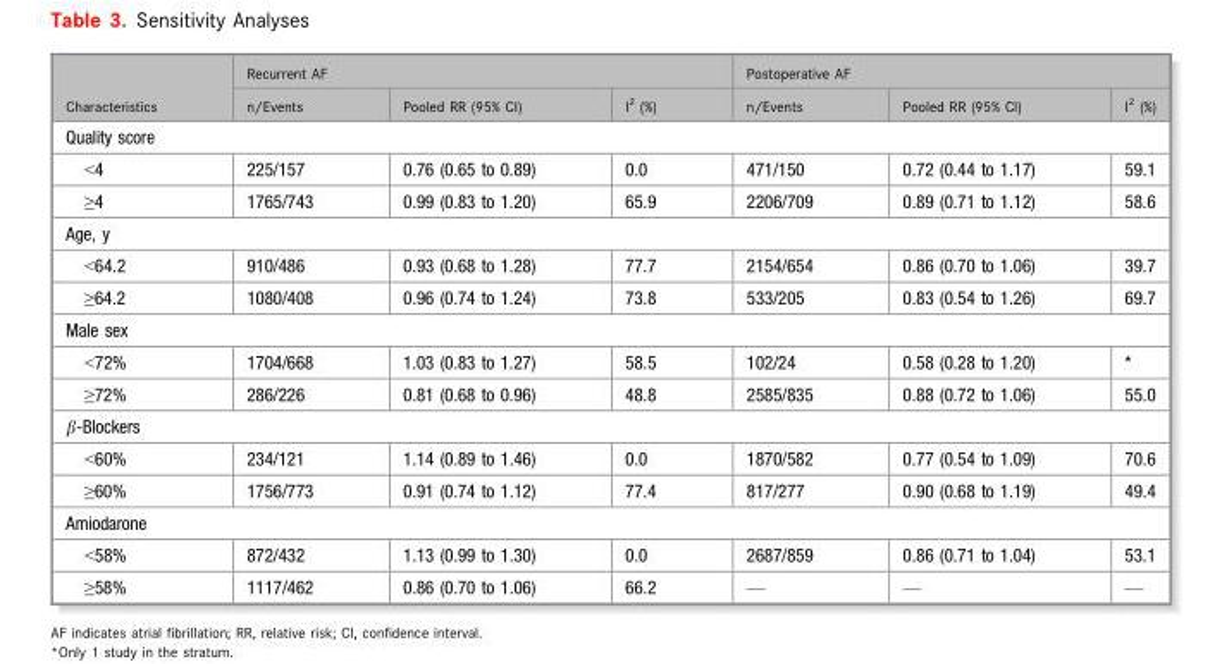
<table><thead><tr><td rowspan="2">Characteristics</td><td colspan="3">Recurrent AF</td><td colspan="3">Postoperative AF</td></tr><tr><td>n/Events</td><td>Pooled RR (95% CI)</td><td>I<sup>2</sup> (%)</td><td>n/Events</td><td>Pooled RR (95% CI)</td><td>I<sup>2</sup> (%)</td></tr></thead><tbody><tr><td colspan="7">Quality score</td></tr><tr><td>&lt;4</td><td>225/157</td><td>0.76 (0.65 to 0.89)</td><td>0.0</td><td>471/150</td><td>0.72 (0.44 to 1.17)</td><td>59.1</td></tr><tr><td>≥4</td><td>1765/743</td><td>0.99 (0.83 to 1.20)</td><td>65.9</td><td>2206/709</td><td>0.89 (0.71 to 1.12)</td><td>58.6</td></tr><tr><td colspan="7">Age, y</td></tr><tr><td>&lt;64.2</td><td>910/486</td><td>0.93 (0.68 to 1.28)</td><td>77.7</td><td>2154/654</td><td>0.86 (0.70 to 1.06)</td><td>39.7</td></tr><tr><td>≥64.2</td><td>1080/408</td><td>0.96 (0.74 to 1.24)</td><td>73.8</td><td>533/205</td><td>0.83 (0.54 to 1.26)</td><td>69.7</td></tr><tr><td colspan="7">Male sex</td></tr><tr><td>&lt;72%</td><td>1704/668</td><td>1.03 (0.83 to 1.27)</td><td>58.5</td><td>102/24</td><td>0.58 (0.28 to 1.20)</td><td>*</td></tr><tr><td>≥72%</td><td>286/226</td><td>0.81 (0.68 to 0.96)</td><td>48.8</td><td>2585/835</td><td>0.88 (0.72 to 1.06)</td><td>55.0</td></tr><tr><td colspan="7">β-Blockers</td></tr><tr><td>&lt;60%</td><td>234/121</td><td>1.14 (0.89 to 1.46)</td><td>0.0</td><td>1870/582</td><td>0.77 (0.54 to 1.09)</td><td>70.6</td></tr><tr><td>≥60%</td><td>1756/773</td><td>0.91 (0.74 to 1.12)</td><td>77.4</td><td>817/277</td><td>0.90 (0.68 to 1.19)</td><td>49.4</td></tr><tr><td colspan="7">Amiodarone</td></tr><tr><td>&lt;58%</td><td>872/432</td><td>1.13 (0.99 to 1.30)</td><td>0.0</td><td>2687/859</td><td>0.86 (0.71 to 1.04)</td><td>53.1</td></tr><tr><td>≥58%</td><td>1117/462</td><td>0.86 (0.70 to 1.06)</td><td>66.2</td><td>—</td><td>—</td><td>—</td></tr></tbody></table>